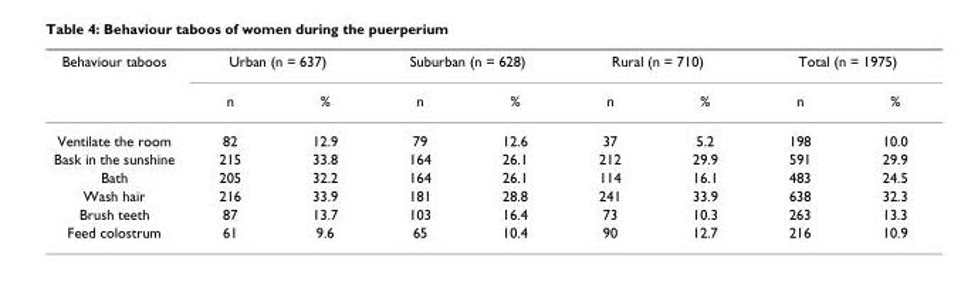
<table><thead><tr><td rowspan="2">Behaviour taboos</td><td colspan="2">Urban (n = 637)</td><td colspan="2">Suburban (n = 628)</td><td colspan="2">Rural (n = 710)</td><td colspan="2">Total (n = 1975)</td></tr><tr><td>n</td><td>%</td><td>n</td><td>%</td><td>n</td><td>%</td><td>n</td><td>%</td></tr></thead><tbody><tr><td>Ventilate the room</td><td>82</td><td>12.9</td><td>79</td><td>12.6</td><td>37</td><td>5.2</td><td>198</td><td>10.0</td></tr><tr><td>Bask in the sunshine</td><td>215</td><td>33.8</td><td>164</td><td>26.1</td><td>212</td><td>29.9</td><td>591</td><td>29.9</td></tr><tr><td>Bath</td><td>205</td><td>32.2</td><td>164</td><td>26.1</td><td>114</td><td>16.1</td><td>483</td><td>24.5</td></tr><tr><td>Wash hair</td><td>216</td><td>33.9</td><td>181</td><td>28.8</td><td>241</td><td>33.9</td><td>638</td><td>32.3</td></tr><tr><td>Brush teeth</td><td>87</td><td>13.7</td><td>103</td><td>16.4</td><td>73</td><td>10.3</td><td>263</td><td>13.3</td></tr><tr><td>Feed colostrum</td><td>61</td><td>9.6</td><td>65</td><td>10.4</td><td>90</td><td>12.7</td><td>216</td><td>10.9</td></tr></tbody></table>